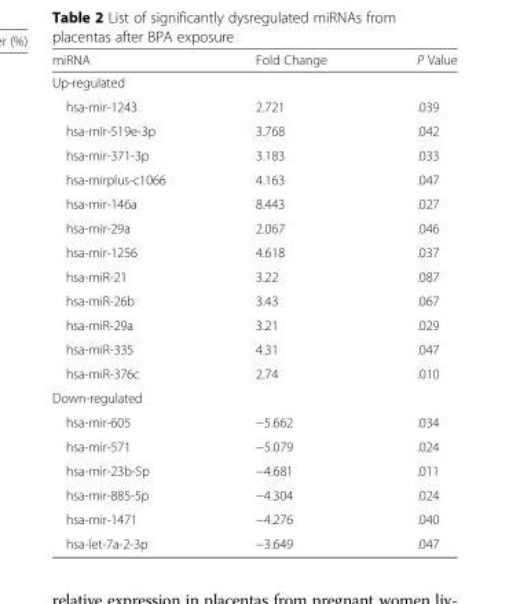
<table><thead><tr><td>miRNA</td><td>Fold Change</td><td>P Value</td></tr></thead><tbody><tr><td colspan="3">Up-regulated</td></tr><tr><td>hsa-mir-1243</td><td>2.721</td><td>.039</td></tr><tr><td>hsa-mir-519e-3p</td><td>3.768</td><td>.042</td></tr><tr><td>hsa-mir-371-3p</td><td>3.183</td><td>.033</td></tr><tr><td>hsa-mirplus-c1066</td><td>4.163</td><td>.047</td></tr><tr><td>hsa-mir-146a</td><td>8.443</td><td>.027</td></tr><tr><td>hsa-mir-29a</td><td>2.067</td><td>.046</td></tr><tr><td>hsa-mir-1256</td><td>4.618</td><td>.037</td></tr><tr><td>hsa-miR-21</td><td>3.22</td><td>.087</td></tr><tr><td>hsa-miR-26b</td><td>3.43</td><td>.067</td></tr><tr><td>hsa-miR-29a</td><td>3.21</td><td>.029</td></tr><tr><td>hsa-miR-335</td><td>4.31</td><td>.047</td></tr><tr><td>hsa-miR-376c</td><td>2.74</td><td>.010</td></tr><tr><td colspan="3">Down-regulated</td></tr><tr><td>hsa-mir-605</td><td>−5.662</td><td>.034</td></tr><tr><td>hsa-mir-571</td><td>−5.079</td><td>.024</td></tr><tr><td>hsa-mir-23b-5p</td><td>−4.681</td><td>.011</td></tr><tr><td>hsa-mir-885-5p</td><td>−4.304</td><td>.024</td></tr><tr><td>hsa-mir-1471</td><td>−4.276</td><td>.040</td></tr><tr><td>hsa-let-7a-2-3p</td><td>−3.649</td><td>.047</td></tr></tbody></table>